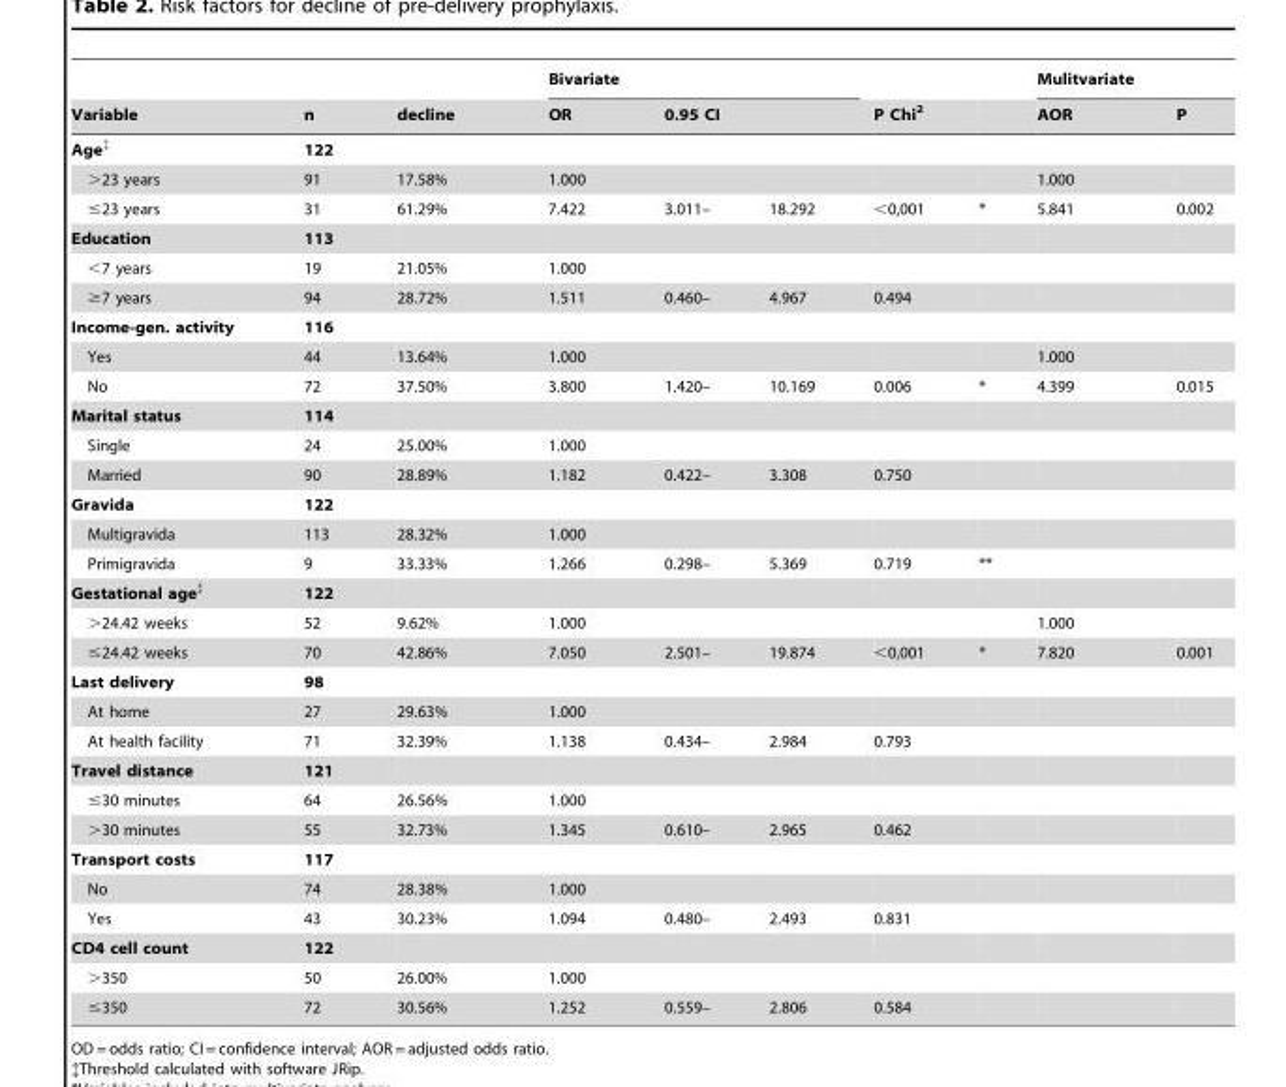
<table><thead><tr><td rowspan="3">Variable Age‡</td><td rowspan="3">n 122</td><td rowspan="3">decline</td><td colspan="3">Bivariate</td><td rowspan="3">P Chi<sup>2</sup></td><td rowspan="3"></td><td colspan="2">Mulitvariate</td></tr><tr><td rowspan="2">OR</td><td colspan="2">0.95 CI</td><td rowspan="2">AOR</td><td rowspan="2">P</td></tr><tr><td></td><td></td></tr></thead><tbody><tr><td>&gt;23 years</td><td>91</td><td>17.58%</td><td>1.000</td><td></td><td></td><td></td><td></td><td>1.000</td><td></td></tr><tr><td>≤23 years</td><td>31</td><td>61.29%</td><td>7.422</td><td>3.011–</td><td>18.292</td><td>&lt;0,001</td><td>*</td><td>5.841</td><td>0.002</td></tr><tr><td>Education</td><td>113</td><td></td><td></td><td></td><td></td><td></td><td></td><td></td><td></td></tr><tr><td>&lt;7 years</td><td>19</td><td>21.05%</td><td>1.000</td><td></td><td></td><td></td><td></td><td></td><td></td></tr><tr><td>≥7 years</td><td>94</td><td>28.72%</td><td>1.511</td><td>0.460–</td><td>4.967</td><td>0.494</td><td></td><td></td><td></td></tr><tr><td>Income-gen. activity</td><td>116</td><td></td><td></td><td></td><td></td><td></td><td></td><td></td><td></td></tr><tr><td>Yes</td><td>44</td><td>13.64%</td><td>1.000</td><td></td><td></td><td></td><td></td><td>1.000</td><td></td></tr><tr><td>No</td><td>72</td><td>37.50%</td><td>3.800</td><td>1.420–</td><td>10.169</td><td>0.006</td><td>*</td><td>4.399</td><td>0.015</td></tr><tr><td>Marital status</td><td>114</td><td></td><td></td><td></td><td></td><td></td><td></td><td></td><td></td></tr><tr><td>Single</td><td>24</td><td>25.00%</td><td>1.000</td><td></td><td></td><td></td><td></td><td></td><td></td></tr><tr><td>Married</td><td>90</td><td>28.89%</td><td>1.182</td><td>0.422–</td><td>3.308</td><td>0.750</td><td></td><td></td><td></td></tr><tr><td>Gravida</td><td>122</td><td></td><td></td><td></td><td></td><td></td><td></td><td></td><td></td></tr><tr><td>Multigravida</td><td>113</td><td>28.32%</td><td>1.000</td><td></td><td></td><td></td><td></td><td></td><td></td></tr><tr><td>Primigravida</td><td>9</td><td>33.33%</td><td>1.266</td><td>0.298–</td><td>5.369</td><td>0.719</td><td>**</td><td></td><td></td></tr><tr><td>Gestational age‡</td><td>122</td><td></td><td></td><td></td><td></td><td></td><td></td><td></td><td></td></tr><tr><td>&gt;24.42 weeks</td><td>52</td><td>9.62%</td><td>1.000</td><td></td><td></td><td></td><td></td><td>1.000</td><td></td></tr><tr><td>≤24.42 weeks</td><td>70</td><td>42.86%</td><td>7.050</td><td>2.501–</td><td>19.874</td><td>&lt;0,001</td><td>*</td><td>7.820</td><td>0.001</td></tr><tr><td>Last delivery</td><td>98</td><td></td><td></td><td></td><td></td><td></td><td></td><td></td><td></td></tr><tr><td>At home</td><td>27</td><td>29.63%</td><td>1.000</td><td></td><td></td><td></td><td></td><td></td><td></td></tr><tr><td>At health facility</td><td>71</td><td>32.39%</td><td>1.138</td><td>0.434–</td><td>2.984</td><td>0.793</td><td></td><td></td><td></td></tr><tr><td>Travel distance</td><td>121</td><td></td><td></td><td></td><td></td><td></td><td></td><td></td><td></td></tr><tr><td>≤30 minutes</td><td>64</td><td>26.56%</td><td>1.000</td><td></td><td></td><td></td><td></td><td></td><td></td></tr><tr><td>&gt;30 minutes</td><td>55</td><td>32.73%</td><td>1.345</td><td>0.610–</td><td>2.965</td><td>0.462</td><td></td><td></td><td></td></tr><tr><td>Transport costs</td><td>117</td><td></td><td></td><td></td><td></td><td></td><td></td><td></td><td></td></tr><tr><td>No</td><td>74</td><td>28.38%</td><td>1.000</td><td></td><td></td><td></td><td></td><td></td><td></td></tr><tr><td>Yes</td><td>43</td><td>30.23%</td><td>1.094</td><td>0.480–</td><td>2.493</td><td>0.831</td><td></td><td></td><td></td></tr><tr><td>CD4 cell count</td><td>122</td><td></td><td></td><td></td><td></td><td></td><td></td><td></td><td></td></tr><tr><td>&gt;350</td><td>50</td><td>26.00%</td><td>1.000</td><td></td><td></td><td></td><td></td><td></td><td></td></tr><tr><td>≤350</td><td>72</td><td>30.56%</td><td>1.252</td><td>0.559–</td><td>2.806</td><td>0.584</td><td></td><td></td><td></td></tr></tbody></table>